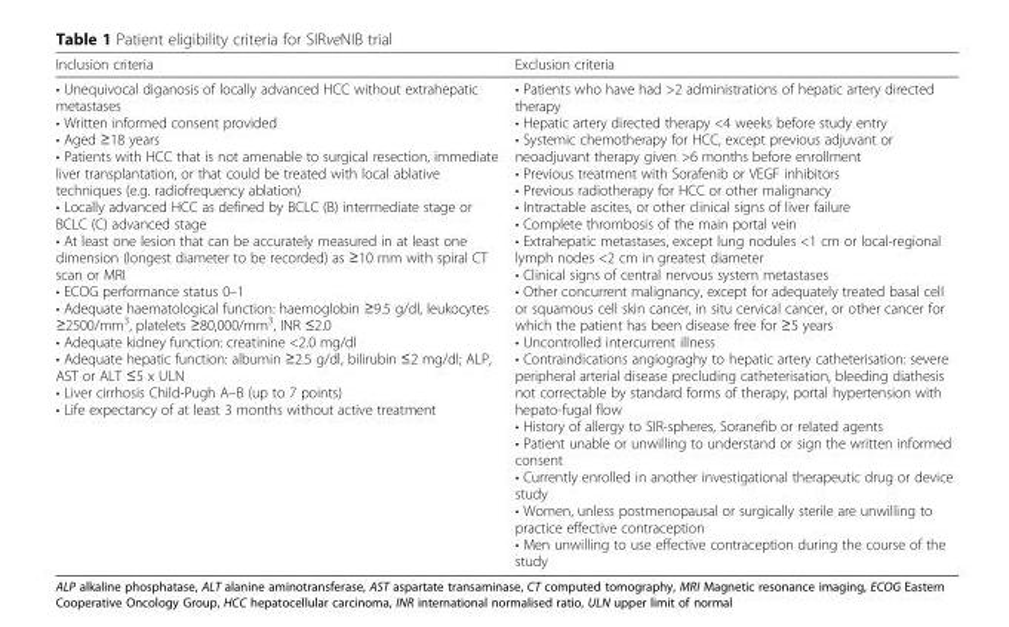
<table><thead><tr><td>Inclusion criteria</td><td>Exclusion criteria</td></tr></thead><tbody><tr><td>• Unequivocal diganosis of locally advanced HCC without extrahepatic metastases • Written informed consent provided • Aged ≥18 years • Patients with HCC that is not amenable to surgical resection, immediate liver transplantation, or that could be treated with local ablative techniques (e.g. radiofrequency ablation) • Locally advanced HCC as defined by BCLC (B) intermediate stage or BCLC (C) advanced stage • At least one lesion that can be accurately measured in at least one dimension (longest diameter to be recorded) as ≥10 mm with spiral CT scan or MRI • ECOG performance status 0–1 • Adequate haematological function: haemoglobin ≥9.5 g/dl, leukocytes ≥2500/mm<sup>3</sup>, platelets ≥80,000/mm<sup>3</sup>, INR ≤2.0 • Adequate kidney function: creatinine &lt;2.0 mg/dl • Adequate hepatic function: albumin ≥2.5 g/dl, bilirubin ≤2 mg/dl; ALP, AST or ALT ≤5 x ULN • Liver cirrhosis Child-Pugh A–B (up to 7 points) • Life expectancy of at least 3 months without active treatment</td><td>• Patients who have had &gt;2 administrations of hepatic artery directed therapy • Hepatic artery directed therapy &lt;4 weeks before study entry • Systemic chemotherapy for HCC, except previous adjuvant or neoadjuvant therapy given &gt;6 months before enrollment • Previous treatment with Sorafenib or VEGF inhibitors • Previous radiotherapy for HCC or other malignancy • Intractable ascites, or other clinical signs of liver failure • Complete thrombosis of the main portal vein • Extrahepatic metastases, except lung nodules &lt;1 cm or local-regional lymph nodes &lt;2 cm in greatest diameter • Clinical signs of central nervous system metastases • Other concurrent malignancy, except for adequately treated basal cell or squamous cell skin cancer, in situ cervical cancer, or other cancer for which the patient has been disease free for ≥5 years • Uncontrolled intercurrent illness • Contraindications angiograghy to hepatic artery catheterisation: severe peripheral arterial disease precluding catheterisation, bleeding diathesis not correctable by standard forms of therapy, portal hypertension with hepato-fugal flow • History of allergy to SIR-spheres, Soranefib or related agents • Patient unable or unwilling to understand or sign the written informed consent • Currently enrolled in another investigational therapeutic drug or device study • Women, unless postmenopausal or surgically sterile are unwilling to practice effective contraception • Men unwilling to use effective contraception during the course of the study</td></tr></tbody></table>